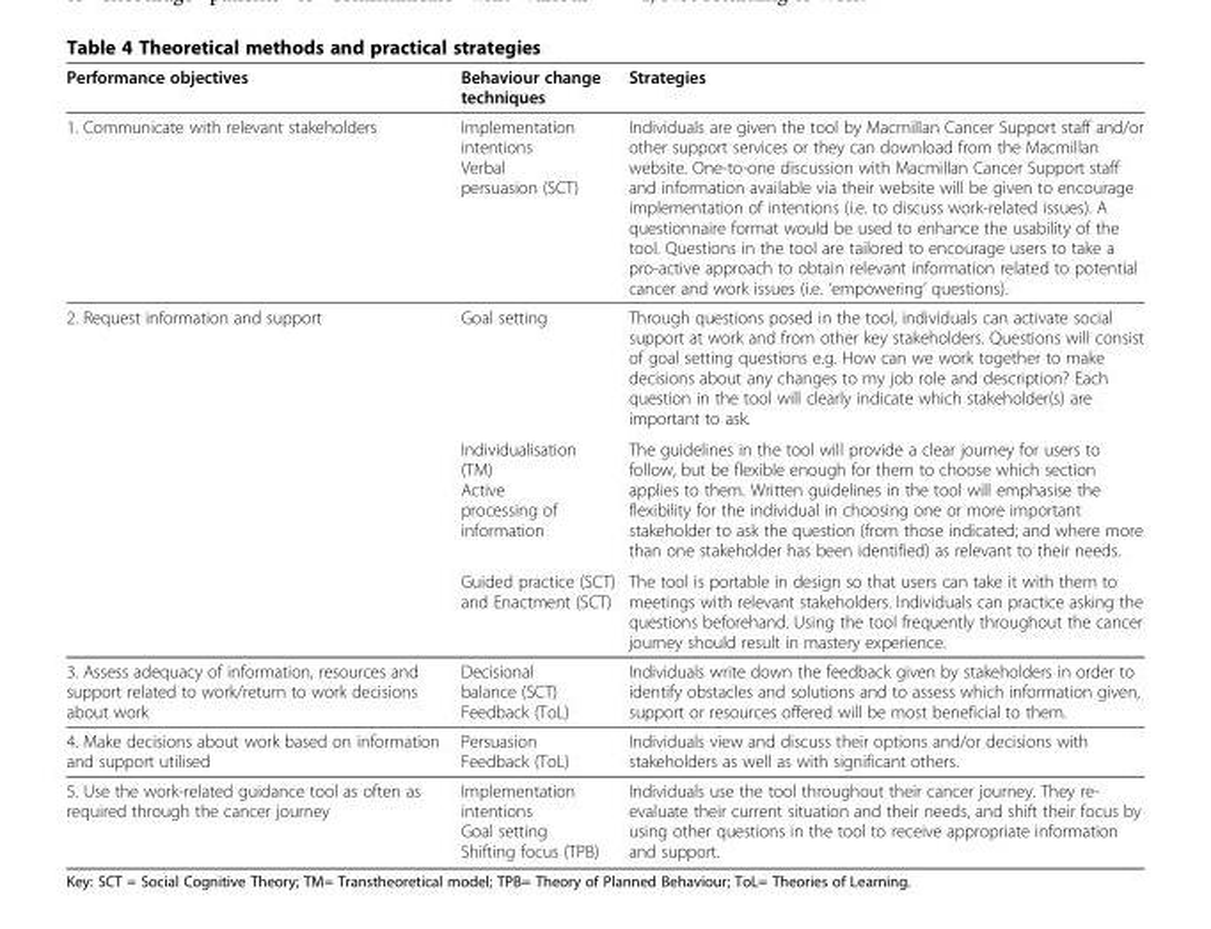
<table><thead><tr><td>Performance objectives</td><td>Behaviour change techniques</td><td>Strategies</td></tr></thead><tbody><tr><td>1. Communicate with relevant stakeholders</td><td>Implementation intentions Verbal persuasion (SCT)</td><td>Individuals are given the tool by Macmillan Cancer Support staff and/or other support services or they can download from the Macmillan website. One-to-one discussion with Macmillan Cancer Support staff and information available via their website will be given to encourage implementation of intentions (i.e. to discuss work-related issues). A questionnaire format would be used to enhance the usability of the tool. Questions in the tool are tailored to encourage users to take a pro-active approach to obtain relevant information related to potential cancer and work issues (i.e. ‘empowering’ questions).</td></tr><tr><td rowspan="3">2. Request information and support</td><td>Goal setting</td><td>Through questions posed in the tool, individuals can activate social support at work and from other key stakeholders. Questions will consist of goal setting questions e.g. How can we work together to make decisions about any changes to my job role and description? Each question in the tool will clearly indicate which stakeholder(s) are important to ask.</td></tr><tr><td>Individualisation (TM) Active processing of information</td><td>The guidelines in the tool will provide a clear journey for users to follow, but be flexible enough for them to choose which section applies to them. Written guidelines in the tool will emphasise the flexibility for the individual in choosing one or more important stakeholder to ask the question (from those indicated; and where more than one stakeholder has been identified) as relevant to their needs.</td></tr><tr><td>Guided practice (SCT) and Enactment (SCT)</td><td>The tool is portable in design so that users can take it with them to meetings with relevant stakeholders. Individuals can practice asking the questions beforehand. Using the tool frequently throughout the cancer journey should result in mastery experience.</td></tr><tr><td>3. Assess adequacy of information, resources and support related to work/return to work decisions about work</td><td>Decisional balance (SCT) Feedback (ToL)</td><td>Individuals write down the feedback given by stakeholders in order to identify obstacles and solutions and to assess which information given, support or resources offered will be most beneficial to them.</td></tr><tr><td>4. Make decisions about work based on information and support utilised</td><td>Persuasion Feedback (ToL)</td><td>Individuals view and discuss their options and/or decisions with stakeholders as well as with significant others.</td></tr><tr><td>5. Use the work-related guidance tool as often as required through the cancer journey</td><td>Implementation intentions Goal setting Shifting focus (TPB)</td><td>Individuals use the tool throughout their cancer journey. They re- evaluate their current situation and their needs, and shift their focus by using other questions in the tool to receive appropriate information and support.</td></tr></tbody></table>